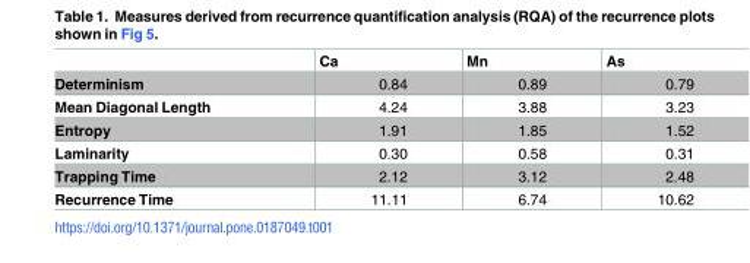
<table><thead><tr><td></td><td>Ca</td><td>Mn</td><td>As</td></tr></thead><tbody><tr><td>Determinism</td><td>0.84</td><td>0.89</td><td>0.79</td></tr><tr><td>Mean Diagonal Length</td><td>4.24</td><td>3.88</td><td>3.23</td></tr><tr><td>Entropy</td><td>1.91</td><td>1.85</td><td>1.52</td></tr><tr><td>Laminarity</td><td>0.30</td><td>0.58</td><td>0.31</td></tr><tr><td>Trapping Time</td><td>2.12</td><td>3.12</td><td>2.48</td></tr><tr><td>Recurrence Time</td><td>11.11</td><td>6.74</td><td>10.62</td></tr></tbody></table>